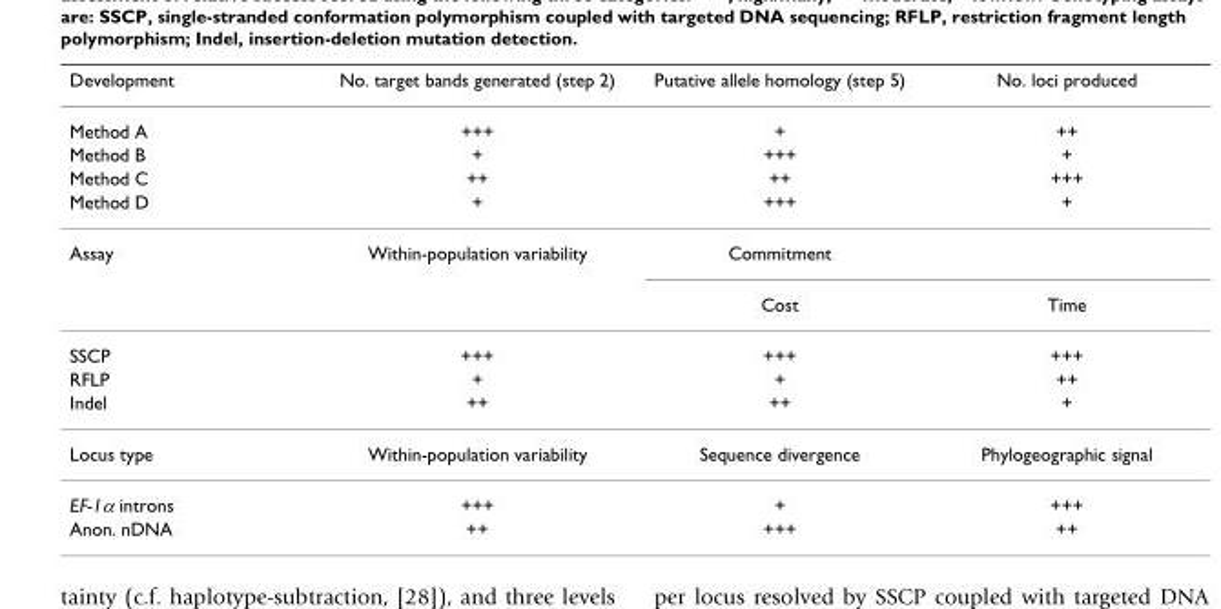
<table><thead><tr><td>Development</td><td>No. target bands generated (step 2)</td><td>Putative allele homology (step 5)</td><td>No. loci produced</td></tr></thead><tbody><tr><td>Method A</td><td>+++</td><td>+</td><td>++</td></tr><tr><td>Method B</td><td>+</td><td>+++</td><td>+</td></tr><tr><td>Method C</td><td>++</td><td>++</td><td>+++</td></tr><tr><td>Method D</td><td>+</td><td>+++</td><td>+</td></tr><tr><td rowspan="2">Assay</td><td>Within-population variability</td><td>Commitment</td><td></td></tr><tr><td></td><td>Cost</td><td>Time</td></tr><tr><td>SSCP</td><td>+++</td><td>+++</td><td>+++</td></tr><tr><td>RFLP</td><td>+</td><td>+</td><td>++</td></tr><tr><td>Indel</td><td>++</td><td>++</td><td>+</td></tr><tr><td>Locus type</td><td>Within-population variability</td><td>Sequence divergence</td><td>Phylogeographic signal</td></tr><tr><td>EF-1α introns</td><td>+++</td><td>+</td><td>+++</td></tr><tr><td>Anon. nDNA</td><td>++</td><td>+++</td><td>++</td></tr></tbody></table>